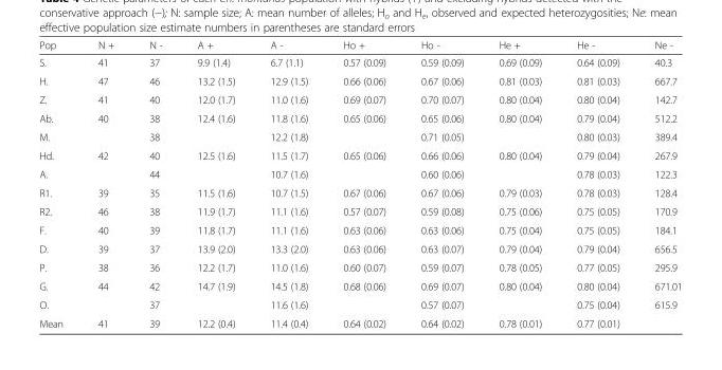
<table><thead><tr><td>Pop</td><td>N +</td><td>N -</td><td>A +</td><td>A -</td><td>Ho +</td><td>Ho -</td><td>He +</td><td>He -</td><td>Ne -</td></tr></thead><tbody><tr><td>S.</td><td>41</td><td>37</td><td>9.9 (1.4)</td><td>6.7 (1.1)</td><td>0.57 (0.09)</td><td>0.59 (0.09)</td><td>0.69 (0.09)</td><td>0.64 (0.09)</td><td>40.3</td></tr><tr><td>H.</td><td>47</td><td>46</td><td>13.2 (1.5)</td><td>12.9 (1.5)</td><td>0.66 (0.06)</td><td>0.67 (0.06)</td><td>0.81 (0.03)</td><td>0.81 (0.03)</td><td>667.7</td></tr><tr><td>Z.</td><td>41</td><td>40</td><td>12.0 (1.7)</td><td>11.0 (1.6)</td><td>0.69 (0.07)</td><td>0.70 (0.07)</td><td>0.80 (0.04)</td><td>0.80 (0.04)</td><td>142.7</td></tr><tr><td>Ab.</td><td>40</td><td>38</td><td>12.4 (1.6)</td><td>11.8 (1.6)</td><td>0.65 (0.06)</td><td>0.65 (0.06)</td><td>0.80 (0.04)</td><td>0.79 (0.04)</td><td>512.2</td></tr><tr><td>M.</td><td></td><td>38</td><td></td><td>12.2 (1.8)</td><td></td><td>0.71 (0.05)</td><td></td><td>0.80 (0.03)</td><td>389.4</td></tr><tr><td>Hd.</td><td>42</td><td>40</td><td>12.5 (1.6)</td><td>11.5 (1.7)</td><td>0.65 (0.06)</td><td>0.66 (0.06)</td><td>0.80 (0.04)</td><td>0.79 (0.04)</td><td>267.9</td></tr><tr><td>A.</td><td></td><td>44</td><td></td><td>10.7 (1.6)</td><td></td><td>0.60 (0.06)</td><td></td><td>0.78 (0.03)</td><td>122.3</td></tr><tr><td>R1.</td><td>39</td><td>35</td><td>11.5 (1.6)</td><td>10.7 (1.5)</td><td>0.67 (0.06)</td><td>0.67 (0.06)</td><td>0.79 (0.03)</td><td>0.78 (0.03)</td><td>128.4</td></tr><tr><td>R2.</td><td>46</td><td>38</td><td>11.9 (1.7)</td><td>11.1 (1.6)</td><td>0.57 (0.07)</td><td>0.59 (0.08)</td><td>0.75 (0.06)</td><td>0.75 (0.05)</td><td>170.9</td></tr><tr><td>F.</td><td>40</td><td>39</td><td>11.8 (1.7)</td><td>11.1 (1.6)</td><td>0.63 (0.06)</td><td>0.63 (0.06)</td><td>0.75 (0.04)</td><td>0.75 (0.05)</td><td>184.1</td></tr><tr><td>D.</td><td>39</td><td>37</td><td>13.9 (2.0)</td><td>13.3 (2.0)</td><td>0.63 (0.06)</td><td>0.63 (0.07)</td><td>0.79 (0.04)</td><td>0.79 (0.04)</td><td>656.5</td></tr><tr><td>P.</td><td>38</td><td>36</td><td>12.2 (1.7)</td><td>11.0 (1.6)</td><td>0.60 (0.07)</td><td>0.59 (0.07)</td><td>0.78 (0.05)</td><td>0.77 (0.05)</td><td>295.9</td></tr><tr><td>G.</td><td>44</td><td>42</td><td>14.7 (1.9)</td><td>14.5 (1.8)</td><td>0.68 (0.06)</td><td>0.69 (0.07)</td><td>0.80 (0.04)</td><td>0.80 (0.04)</td><td>671.01</td></tr><tr><td>O.</td><td></td><td>37</td><td></td><td>11.6 (1.6)</td><td></td><td>0.57 (0.07)</td><td></td><td>0.75 (0.04)</td><td>615.9</td></tr><tr><td>Mean</td><td>41</td><td>39</td><td>12.2 (0.4)</td><td>11.4 (0.4)</td><td>0.64 (0.02)</td><td>0.64 (0.02)</td><td>0.78 (0.01)</td><td>0.77 (0.01)</td><td></td></tr></tbody></table>